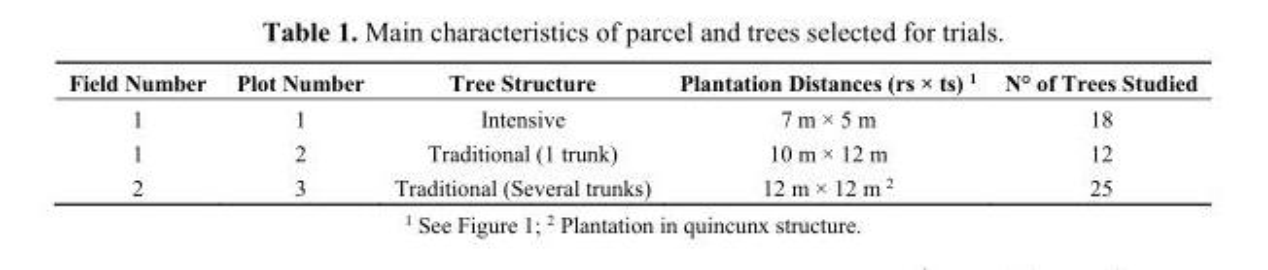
<table><thead><tr><td>Field Number</td><td>Plot Number</td><td>Tree Structure</td><td>Plantation Distances (rs × ts) <sup>1</sup></td><td>N° of Trees Studied</td></tr></thead><tbody><tr><td>1</td><td>1</td><td>Intensive</td><td>7 m × 5 m</td><td>18</td></tr><tr><td>1</td><td>2</td><td>Traditional (1 trunk)</td><td>10 m × 12 m</td><td>12</td></tr><tr><td>2</td><td>3</td><td>Traditional (Several trunks)</td><td>12 m × 12 m <sup>2</sup></td><td>25</td></tr></tbody></table>